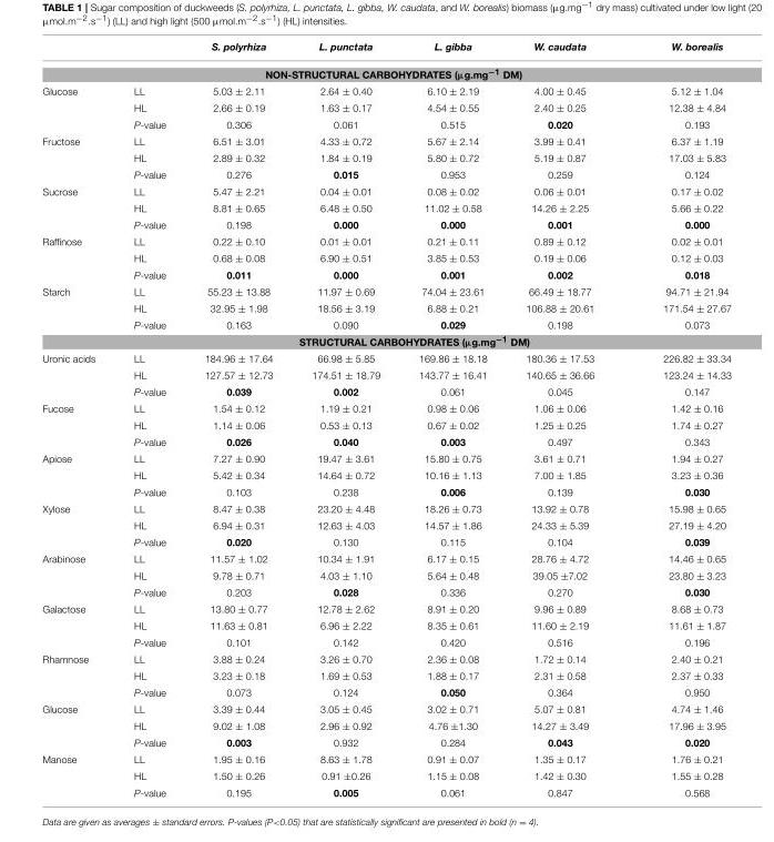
<table><thead><tr><td></td><td></td><td>S. polyrhiza</td><td>L. punctata</td><td>L. gibba</td><td>W. caudata</td><td>W. borealis</td></tr></thead><tbody><tr><td colspan="7">NON-STRUCTURAL CARBOHYDRATES (µg.mg<sup>−1</sup> DM)</td></tr><tr><td rowspan="3">Glucose</td><td>LL</td><td>5.03 ± 2.11</td><td>2.64 ± 0.40</td><td>6.10 ± 2.19</td><td>4.00 ± 0.45</td><td>5.12 ± 1.04</td></tr><tr><td>HL</td><td>2.66 ± 0.19</td><td>1.63 ± 0.17</td><td>4.54 ± 0.55</td><td>2.40 ± 0.25</td><td>12.38 ± 4.84</td></tr><tr><td>P-value</td><td>0.306</td><td>0.061</td><td>0.515</td><td>0.020</td><td>0.193</td></tr><tr><td rowspan="3">Fructose</td><td>LL</td><td>6.51 ± 3.01</td><td>4.33 ± 0.72</td><td>5.67 ± 2.14</td><td>3.99 ± 0.41</td><td>6.37 ± 1.19</td></tr><tr><td>HL</td><td>2.89 ± 0.32</td><td>1.84 ± 0.19</td><td>5.80 ± 0.72</td><td>5.19 ± 0.87</td><td>17.03 ± 5.83</td></tr><tr><td>P-value</td><td>0.276</td><td>0.015</td><td>0.953</td><td>0.259</td><td>0.124</td></tr><tr><td rowspan="3">Sucrose</td><td>LL</td><td>5.47 ± 2.21</td><td>0.04 ± 0.01</td><td>0.08 ± 0.02</td><td>0.06 ± 0.01</td><td>0.17 ± 0.02</td></tr><tr><td>HL</td><td>8.81 ± 0.65</td><td>6.48 ± 0.50</td><td>11.02 ± 0.58</td><td>14.26 ± 2.25</td><td>5.66 ± 0.22</td></tr><tr><td>P-value</td><td>0.198</td><td>0.000</td><td>0.000</td><td>0.001</td><td>0.000</td></tr><tr><td rowspan="3">Raffinose</td><td>LL</td><td>0.22 ± 0.10</td><td>0.01 ± 0.01</td><td>0.21 ± 0.11</td><td>0.89 ± 0.12</td><td>0.02 ± 0.01</td></tr><tr><td>HL</td><td>0.68 ± 0.08</td><td>6.90 ± 0.51</td><td>3.85 ± 0.53</td><td>0.19 ± 0.06</td><td>0.12 ± 0.03</td></tr><tr><td>P-value</td><td>0.011</td><td>0.000</td><td>0.001</td><td>0.002</td><td>0.018</td></tr><tr><td rowspan="3">Starch</td><td>LL</td><td>55.23 ± 13.88</td><td>11.97 ± 0.69</td><td>74.04 ± 23.61</td><td>66.49 ± 18.77</td><td>94.71 ± 21.94</td></tr><tr><td>HL</td><td>32.95 ± 1.98</td><td>18.56 ± 3.19</td><td>6.88 ± 0.21</td><td>106.88 ± 20.61</td><td>171.54 ± 27.67</td></tr><tr><td>P-value</td><td>0.163</td><td>0.090</td><td>0.029</td><td>0.198</td><td>0.073</td></tr><tr><td colspan="7">STRUCTURAL CARBOHYDRATES (µg.mg<sup>−1</sup> DM)</td></tr><tr><td rowspan="3">Uronic acids</td><td>LL</td><td>184.96 ± 17.64</td><td>66.98 ± 5.85</td><td>169.86 ± 18.18</td><td>180.36 ± 17.53</td><td>226.82 ± 33.34</td></tr><tr><td>HL</td><td>127.57 ± 12.73</td><td>174.51 ± 18.79</td><td>143.77 ± 16.41</td><td>140.65 ± 36.66</td><td>123.24 ± 14.33</td></tr><tr><td>P-value</td><td>0.039</td><td>0.002</td><td>0.061</td><td>0.045</td><td>0.147</td></tr><tr><td rowspan="3">Fucose</td><td>LL</td><td>1.54 ± 0.12</td><td>1.19 ± 0.21</td><td>0.98 ± 0.06</td><td>1.06 ± 0.06</td><td>1.42 ± 0.16</td></tr><tr><td>HL</td><td>1.14 ± 0.06</td><td>0.53 ± 0.13</td><td>0.67 ± 0.02</td><td>1.25 ± 0.25</td><td>1.74 ± 0.27</td></tr><tr><td>P-value</td><td>0.026</td><td>0.040</td><td>0.003</td><td>0.497</td><td>0.343</td></tr><tr><td rowspan="3">Apiose</td><td>LL</td><td>7.27 ± 0.90</td><td>19.47 ± 3.61</td><td>15.80 ± 0.75</td><td>3.61 ± 0.71</td><td>1.94 ± 0.27</td></tr><tr><td>HL</td><td>5.42 ± 0.34</td><td>14.64 ± 0.72</td><td>10.16 ± 1.13</td><td>7.00 ± 1.85</td><td>3.23 ± 0.36</td></tr><tr><td>P-value</td><td>0.103</td><td>0.238</td><td>0.006</td><td>0.139</td><td>0.030</td></tr><tr><td rowspan="3">Xylose</td><td>LL</td><td>8.47 ± 0.38</td><td>23.20 ± 4.48</td><td>18.26 ± 0.73</td><td>13.92 ± 0.78</td><td>15.98 ± 0.65</td></tr><tr><td>HL</td><td>6.94 ± 0.31</td><td>12.63 ± 4.03</td><td>14.57 ± 1.86</td><td>24.33 ± 5.39</td><td>27.19 ± 4.20</td></tr><tr><td>P-value</td><td>0.020</td><td>0.130</td><td>0.115</td><td>0.104</td><td>0.039</td></tr><tr><td rowspan="3">Arabinose</td><td>LL</td><td>11.57 ± 1.02</td><td>10.34 ± 1.91</td><td>6.17 ± 0.15</td><td>28.76 ± 4.72</td><td>14.46 ± 0.65</td></tr><tr><td>HL</td><td>9.78 ± 0.71</td><td>4.03 ± 1.10</td><td>5.64 ± 0.48</td><td>39.05 ±7.02</td><td>23.80 ± 3.23</td></tr><tr><td>P-value</td><td>0.203</td><td>0.028</td><td>0.336</td><td>0.270</td><td>0.030</td></tr><tr><td rowspan="3">Galactose</td><td>LL</td><td>13.80 ± 0.77</td><td>12.78 ± 2.62</td><td>8.91 ± 0.20</td><td>9.96 ± 0.89</td><td>8.68 ± 0.73</td></tr><tr><td>HL</td><td>11.63 ± 0.81</td><td>6.96 ± 2.22</td><td>8.35 ± 0.61</td><td>11.60 ± 2.19</td><td>11.61 ± 1.87</td></tr><tr><td>P-value</td><td>0.101</td><td>0.142</td><td>0.420</td><td>0.516</td><td>0.196</td></tr><tr><td rowspan="3">Rhamnose</td><td>LL</td><td>3.88 ± 0.24</td><td>3.26 ± 0.70</td><td>2.36 ± 0.08</td><td>1.72 ± 0.14</td><td>2.40 ± 0.21</td></tr><tr><td>HL</td><td>3.23 ± 0.18</td><td>1.69 ± 0.53</td><td>1.88 ± 0.17</td><td>2.31 ± 0.58</td><td>2.37 ± 0.33</td></tr><tr><td>P-value</td><td>0.073</td><td>0.124</td><td>0.050</td><td>0.364</td><td>0.950</td></tr><tr><td rowspan="3">Glucose</td><td>LL</td><td>3.39 ± 0.44</td><td>3.05 ± 0.45</td><td>3.02 ± 0.71</td><td>5.07 ± 0.81</td><td>4.74 ± 1.46</td></tr><tr><td>HL</td><td>9.02 ± 1.08</td><td>2.96 ± 0.92</td><td>4.76 ±1.30</td><td>14.27 ± 3.49</td><td>17.96 ± 3.95</td></tr><tr><td>P-value</td><td>0.003</td><td>0.932</td><td>0.284</td><td>0.043</td><td>0.020</td></tr><tr><td rowspan="3">Manose</td><td>LL</td><td>1.95 ± 0.16</td><td>8.63 ± 1.78</td><td>0.91 ± 0.07</td><td>1.35 ± 0.17</td><td>1.76 ± 0.21</td></tr><tr><td>HL</td><td>1.50 ± 0.26</td><td>0.91 ±0.26</td><td>1.15 ± 0.08</td><td>1.42 ± 0.30</td><td>1.55 ± 0.28</td></tr><tr><td>P-value</td><td>0.195</td><td>0.005</td><td>0.061</td><td>0.847</td><td>0.568</td></tr></tbody></table>